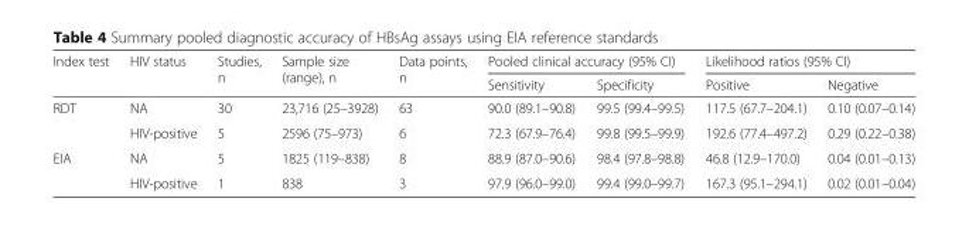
<table><thead><tr><td rowspan="2">Index test</td><td rowspan="2">HIV status</td><td rowspan="2">Studies, n</td><td rowspan="2">Sample size (range), n</td><td rowspan="2">Data points, n</td><td colspan="2">Pooled clinical accuracy (95% CI)</td><td colspan="2">Likelihood ratios (95% CI)</td></tr><tr><td>Sensitivity</td><td>Specificity</td><td>Positive</td><td>Negative</td></tr></thead><tbody><tr><td rowspan="2">RDT</td><td>NA</td><td>30</td><td>23,716 (25–3928)</td><td>63</td><td>90.0 (89.1–90.8)</td><td>99.5 (99.4–99.5)</td><td>117.5 (67.7–204.1)</td><td>0.10 (0.07–0.14)</td></tr><tr><td>HIV-positive</td><td>5</td><td>2596 (75–973)</td><td>6</td><td>72.3 (67.9–76.4)</td><td>99.8 (99.5–99.9)</td><td>192.6 (77.4–497.2)</td><td>0.29 (0.22–0.38)</td></tr><tr><td rowspan="2">EIA</td><td>NA</td><td>5</td><td>1825 (119–838)</td><td>8</td><td>88.9 (87.0–90.6)</td><td>98.4 (97.8–98.8)</td><td>46.8 (12.9–170.0)</td><td>0.04 (0.01–0.13)</td></tr><tr><td>HIV-positive</td><td>1</td><td>838</td><td>3</td><td>97.9 (96.0–99.0)</td><td>99.4 (99.0–99.7)</td><td>167.3 (95.1–294.1)</td><td>0.02 (0.01–0.04)</td></tr></tbody></table>